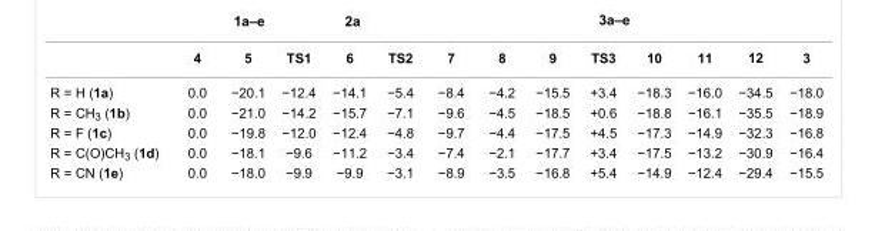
<table><thead><tr><td></td><td>4</td><td>5</td><td>TS1</td><td>6</td><td>TS2</td><td>7</td><td>8</td><td>9</td><td>TS3</td><td>10</td><td>11</td><td>12</td><td>3</td></tr></thead><tbody><tr><td>R = H (1a)</td><td>0.0</td><td>−20.1</td><td>−12.4</td><td>−14.1</td><td>−5.4</td><td>−8.4</td><td>−4.2</td><td>−15.5</td><td>+3.4</td><td>−18.3</td><td>−16.0</td><td>−34.5</td><td>−18.0</td></tr><tr><td>R = CH<sub>3</sub> (1b)</td><td>0.0</td><td>−21.0</td><td>−14.2</td><td>−15.7</td><td>−7.1</td><td>−9.6</td><td>−4.5</td><td>−18.5</td><td>+0.6</td><td>−18.8</td><td>−16.1</td><td>−35.5</td><td>−18.9</td></tr><tr><td>R = F (1c)</td><td>0.0</td><td>−19.8</td><td>−12.0</td><td>−12.4</td><td>−4.8</td><td>−9.7</td><td>−4.4</td><td>−17.5</td><td>+4.5</td><td>−17.3</td><td>−14.9</td><td>−32.3</td><td>−16.8</td></tr><tr><td>R = C(O)CH<sub>3</sub> (1d)</td><td>0.0</td><td>−18.1</td><td>−9.6</td><td>−11.2</td><td>−3.4</td><td>−7.4</td><td>−2.1</td><td>−17.7</td><td>+3.4</td><td>−17.5</td><td>−13.2</td><td>−30.9</td><td>−16.4</td></tr><tr><td>R = CN (1e)</td><td>0.0</td><td>−18.0</td><td>−9.9</td><td>−9.9</td><td>−3.1</td><td>−8.9</td><td>−3.5</td><td>−16.8</td><td>+5.4</td><td>−14.9</td><td>−12.4</td><td>−29.4</td><td>−15.5</td></tr></tbody></table>